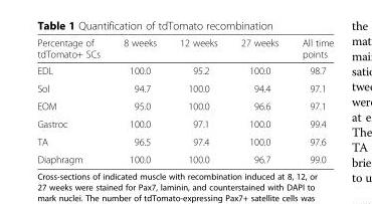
<table><thead><tr><td>Percentage of tdTomato+ SCs</td><td>8 weeks</td><td>12 weeks</td><td>27 weeks</td><td>All time points</td></tr></thead><tbody><tr><td>EDL</td><td>100.0</td><td>95.2</td><td>100.0</td><td>98.7</td></tr><tr><td>Sol</td><td>94.7</td><td>100.0</td><td>94.4</td><td>97.1</td></tr><tr><td>EOM</td><td>95.0</td><td>100.0</td><td>96.6</td><td>97.1</td></tr><tr><td>Gastroc</td><td>100.0</td><td>97.1</td><td>100.0</td><td>99.4</td></tr><tr><td>TA</td><td>96.5</td><td>97.4</td><td>100.0</td><td>97.6</td></tr><tr><td>Diaphragm</td><td>100.0</td><td>100.0</td><td>96.7</td><td>99.0</td></tr></tbody></table>